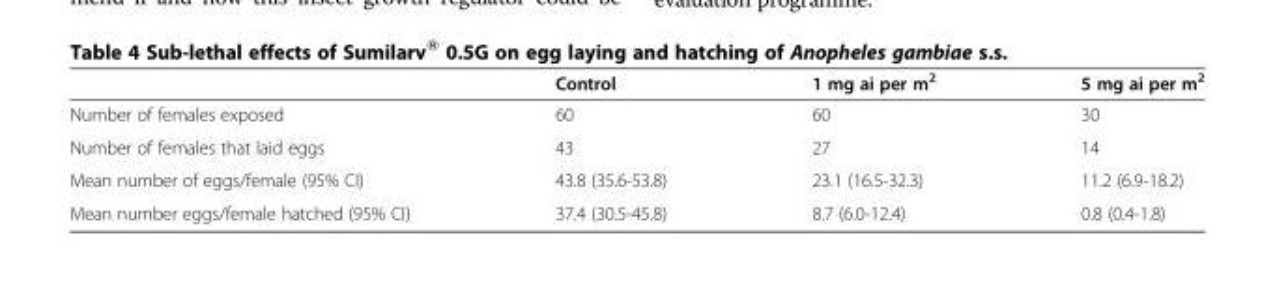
<table><thead><tr><td></td><td>Control</td><td>1 mg ai per m<sup>2</sup></td><td>5 mg ai per m<sup>2</sup></td></tr></thead><tbody><tr><td>Number of females exposed</td><td>60</td><td>60</td><td>30</td></tr><tr><td>Number of females that laid eggs</td><td>43</td><td>27</td><td>14</td></tr><tr><td>Mean number of eggs/female (95% CI)</td><td>43.8 (35.6-53.8)</td><td>23.1 (16.5-32.3)</td><td>11.2 (6.9-18.2)</td></tr><tr><td>Mean number eggs/female hatched (95% CI)</td><td>37.4 (30.5-45.8)</td><td>8.7 (6.0-12.4)</td><td>0.8 (0.4-1.8)</td></tr></tbody></table>